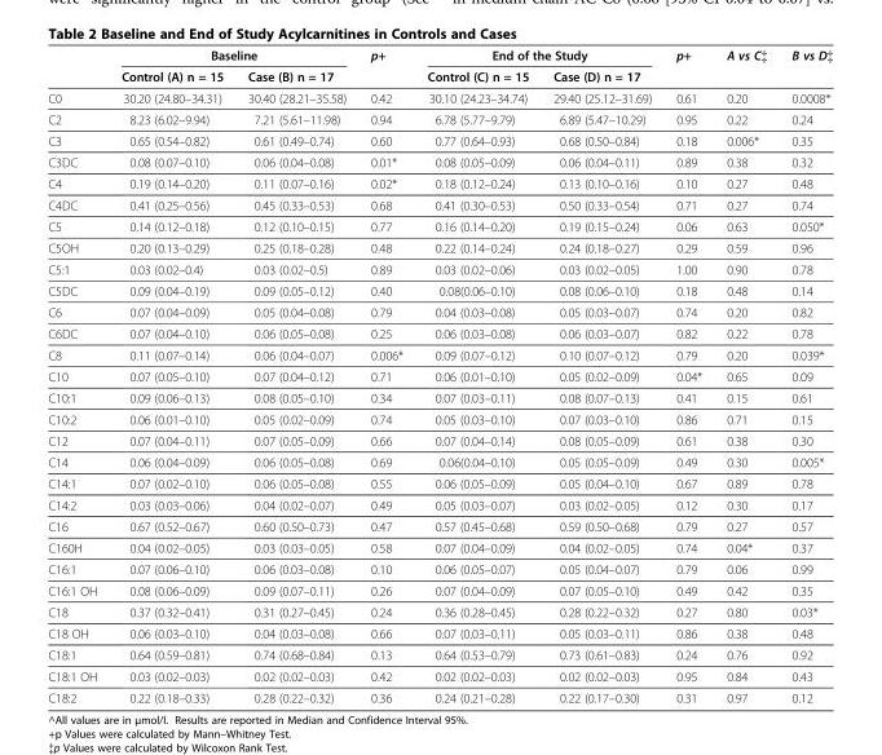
<table><thead><tr><td rowspan="2"></td><td colspan="2">Baseline</td><td rowspan="2">p+</td><td colspan="2">End of the Study</td><td rowspan="2">p+</td><td rowspan="2">A vs C‡</td><td rowspan="2">B vs D‡</td></tr><tr><td>Control (A) n = 15</td><td>Case (B) n = 17</td><td>Control (C) n = 15</td><td>Case (D) n = 17</td></tr></thead><tbody><tr><td>C0</td><td>30.20 (24.80–34.31)</td><td>30.40 (28.21–35.58)</td><td>0.42</td><td>30.10 (24.23–34.74)</td><td>29.40 (25.12–31.69)</td><td>0.61</td><td>0.20</td><td>0.0008*</td></tr><tr><td>C2</td><td>8.23 (6.02–9.94)</td><td>7.21 (5.61–11.98)</td><td>0.94</td><td>6.78 (5.77–9.79)</td><td>6.89 (5.47–10.29)</td><td>0.95</td><td>0.22</td><td>0.24</td></tr><tr><td>C3</td><td>0.65 (0.54–0.82)</td><td>0.61 (0.49–0.74)</td><td>0.60</td><td>0.77 (0.64–0.93)</td><td>0.68 (0.50–0.84)</td><td>0.18</td><td>0.006*</td><td>0.35</td></tr><tr><td>C3DC</td><td>0.08 (0.07–0.10)</td><td>0.06 (0.04–0.08)</td><td>0.01*</td><td>0.08 (0.05–0.09)</td><td>0.06 (0.04–0.11)</td><td>0.89</td><td>0.38</td><td>0.32</td></tr><tr><td>C4</td><td>0.19 (0.14–0.20)</td><td>0.11 (0.07–0.16)</td><td>0.02*</td><td>0.18 (0.12–0.24)</td><td>0.13 (0.10–0.16)</td><td>0.10</td><td>0.27</td><td>0.48</td></tr><tr><td>C4DC</td><td>0.41 (0.25–0.56)</td><td>0.45 (0.33–0.53)</td><td>0.68</td><td>0.41 (0.30–0.53)</td><td>0.50 (0.33–0.54)</td><td>0.71</td><td>0.27</td><td>0.74</td></tr><tr><td>C5</td><td>0.14 (0.12–0.18)</td><td>0.12 (0.10–0.15)</td><td>0.77</td><td>0.16 (0.14–0.20)</td><td>0.19 (0.15–0.24)</td><td>0.06</td><td>0.63</td><td>0.050*</td></tr><tr><td>C5OH</td><td>0.20 (0.13–0.29)</td><td>0.25 (0.18–0.28)</td><td>0.48</td><td>0.22 (0.14–0.24)</td><td>0.24 (0.18–0.27)</td><td>0.29</td><td>0.59</td><td>0.96</td></tr><tr><td>C5:1</td><td>0.03 (0.02–0.4)</td><td>0.03 (0.02–0.5)</td><td>0.89</td><td>0.03 (0.02–0.06)</td><td>0.03 (0.02–0.05)</td><td>1.00</td><td>0.90</td><td>0.78</td></tr><tr><td>C5DC</td><td>0.09 (0.04–0.19)</td><td>0.09 (0.05–0.12)</td><td>0.40</td><td>0.08(0.06–0.10)</td><td>0.08 (0.06–0.10)</td><td>0.18</td><td>0.48</td><td>0.14</td></tr><tr><td>C6</td><td>0.07 (0.04–0.09)</td><td>0.05 (0.04–0.08)</td><td>0.79</td><td>0.04 (0.03–0.08)</td><td>0.05 (0.03–0.07)</td><td>0.74</td><td>0.20</td><td>0.82</td></tr><tr><td>C6DC</td><td>0.07 (0.04–0.10)</td><td>0.06 (0.05–0.08)</td><td>0.25</td><td>0.06 (0.03–0.08)</td><td>0.06 (0.03–0.07)</td><td>0.82</td><td>0.22</td><td>0.78</td></tr><tr><td>C8</td><td>0.11 (0.07–0.14)</td><td>0.06 (0.04–0.07)</td><td>0.006*</td><td>0.09 (0.07–0.12)</td><td>0.10 (0.07–0.12)</td><td>0.79</td><td>0.20</td><td>0.039*</td></tr><tr><td>C10</td><td>0.07 (0.05–0.10)</td><td>0.07 (0.04–0.12)</td><td>0.71</td><td>0.06 (0.01–0.10)</td><td>0.05 (0.02–0.09)</td><td>0.04*</td><td>0.65</td><td>0.09</td></tr><tr><td>C10:1</td><td>0.09 (0.06–0.13)</td><td>0.08 (0.05–0.10)</td><td>0.34</td><td>0.07 (0.03–0.11)</td><td>0.08 (0.07–0.13)</td><td>0.41</td><td>0.15</td><td>0.61</td></tr><tr><td>C10:2</td><td>0.06 (0.01–0.10)</td><td>0.05 (0.02–0.09)</td><td>0.74</td><td>0.05 (0.03–0.10)</td><td>0.07 (0.03–0.10)</td><td>0.86</td><td>0.71</td><td>0.15</td></tr><tr><td>C12</td><td>0.07 (0.04–0.11)</td><td>0.07 (0.05–0.09)</td><td>0.66</td><td>0.07 (0.04–0.14)</td><td>0.08 (0.05–0.09)</td><td>0.61</td><td>0.38</td><td>0.30</td></tr><tr><td>C14</td><td>0.06 (0.04–0.09)</td><td>0.06 (0.05–0.08)</td><td>0.69</td><td>0.06(0.04–0.10)</td><td>0.05 (0.05–0.09)</td><td>0.49</td><td>0.30</td><td>0.005*</td></tr><tr><td>C14:1</td><td>0.07 (0.02–0.10)</td><td>0.06 (0.05–0.08)</td><td>0.55</td><td>0.06 (0.05–0.09)</td><td>0.05 (0.04–0.10)</td><td>0.67</td><td>0.89</td><td>0.78</td></tr><tr><td>C14:2</td><td>0.03 (0.03–0.06)</td><td>0.04 (0.02–0.07)</td><td>0.49</td><td>0.05 (0.03–0.07)</td><td>0.03 (0.02–0.05)</td><td>0.12</td><td>0.30</td><td>0.17</td></tr><tr><td>C16</td><td>0.67 (0.52–0.67)</td><td>0.60 (0.50–0.73)</td><td>0.47</td><td>0.57 (0.45–0.68)</td><td>0.59 (0.50–0.68)</td><td>0.79</td><td>0.27</td><td>0.57</td></tr><tr><td>C160H</td><td>0.04 (0.02–0.05)</td><td>0.03 (0.03–0.05)</td><td>0.58</td><td>0.07 (0.04–0.09)</td><td>0.04 (0.02–0.05)</td><td>0.74</td><td>0.04*</td><td>0.37</td></tr><tr><td>C16:1</td><td>0.07 (0.06–0.10)</td><td>0.06 (0.03–0.08)</td><td>0.10</td><td>0.06 (0.05–0.07)</td><td>0.05 (0.04–0.07)</td><td>0.79</td><td>0.06</td><td>0.99</td></tr><tr><td>C16:1 OH</td><td>0.08 (0.06–0.09)</td><td>0.09 (0.07–0.11)</td><td>0.26</td><td>0.07 (0.04–0.09)</td><td>0.07 (0.05–0.10)</td><td>0.49</td><td>0.42</td><td>0.35</td></tr><tr><td>C18</td><td>0.37 (0.32–0.41)</td><td>0.31 (0.27–0.45)</td><td>0.24</td><td>0.36 (0.28–0.45)</td><td>0.28 (0.22–0.32)</td><td>0.27</td><td>0.80</td><td>0.03*</td></tr><tr><td>C18 OH</td><td>0.06 (0.03–0.10)</td><td>0.04 (0.03–0.08)</td><td>0.66</td><td>0.07 (0.03–0.11)</td><td>0.05 (0.03–0.11)</td><td>0.86</td><td>0.38</td><td>0.48</td></tr><tr><td>C18:1</td><td>0.64 (0.59–0.81)</td><td>0.74 (0.68–0.84)</td><td>0.13</td><td>0.64 (0.53–0.79)</td><td>0.73 (0.61–0.83)</td><td>0.24</td><td>0.76</td><td>0.92</td></tr><tr><td>C18:1 OH</td><td>0.03 (0.02–0.03)</td><td>0.02 (0.02–0.03)</td><td>0.42</td><td>0.02 (0.02–0.03)</td><td>0.02 (0.02–0.03)</td><td>0.95</td><td>0.84</td><td>0.43</td></tr><tr><td>C18:2</td><td>0.22 (0.18–0.33)</td><td>0.28 (0.22–0.32)</td><td>0.36</td><td>0.24 (0.21–0.28)</td><td>0.22 (0.17–0.30)</td><td>0.31</td><td>0.97</td><td>0.12</td></tr></tbody></table>